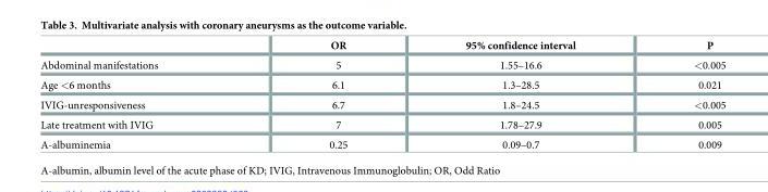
<table><thead><tr><td></td><td>OR</td><td>95% confidence interval</td><td>P</td></tr></thead><tbody><tr><td>Abdominal manifestations</td><td>5</td><td>1.55–16.6</td><td>&lt;0.005</td></tr><tr><td>Age &lt;6 months</td><td>6.1</td><td>1.3–28.5</td><td>0.021</td></tr><tr><td>IVIG-unresponsiveness</td><td>6.7</td><td>1.8–24.5</td><td>&lt;0.005</td></tr><tr><td>Late treatment with IVIG</td><td>7</td><td>1.78–27.9</td><td>0.005</td></tr><tr><td>A-albuminemia</td><td>0.25</td><td>0.09–0.7</td><td>0.009</td></tr></tbody></table>